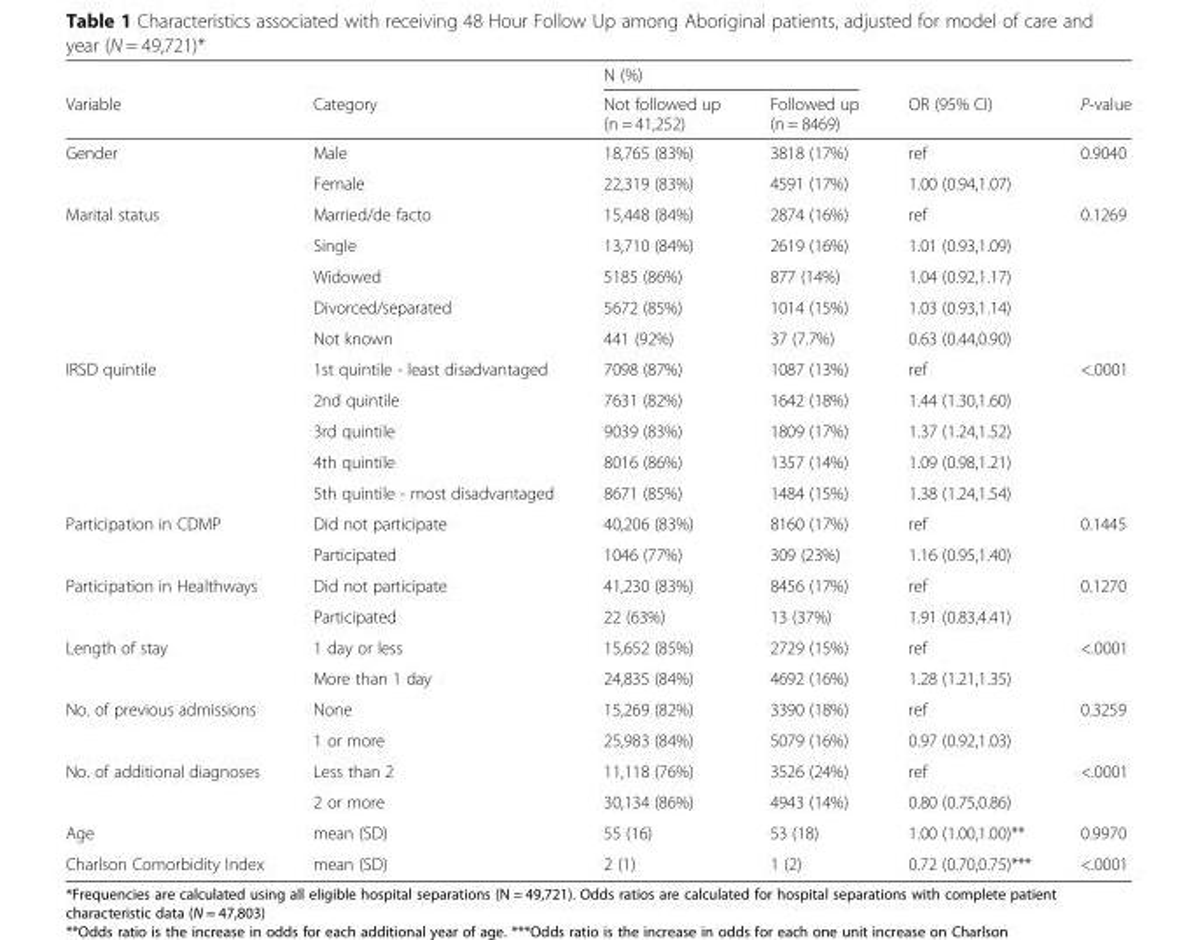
<table><thead><tr><td rowspan="2">Variable</td><td rowspan="2">Category</td><td colspan="2">N (%)</td><td rowspan="2">OR (95% CI)</td><td rowspan="2">P-value</td></tr><tr><td>Not followed up (n = 41,252)</td><td>Followed up (n = 8469)</td></tr></thead><tbody><tr><td rowspan="2">Gender</td><td>Male</td><td>18,765 (83%)</td><td>3818 (17%)</td><td>ref</td><td>0.9040</td></tr><tr><td>Female</td><td>22,319 (83%)</td><td>4591 (17%)</td><td>1.00 (0.94,1.07)</td><td></td></tr><tr><td rowspan="5">Marital status</td><td>Married/de facto</td><td>15,448 (84%)</td><td>2874 (16%)</td><td>ref</td><td>0.1269</td></tr><tr><td>Single</td><td>13,710 (84%)</td><td>2619 (16%)</td><td>1.01 (0.93,1.09)</td><td></td></tr><tr><td>Widowed</td><td>5185 (86%)</td><td>877 (14%)</td><td>1.04 (0.92,1.17)</td><td></td></tr><tr><td>Divorced/separated</td><td>5672 (85%)</td><td>1014 (15%)</td><td>1.03 (0.93,1.14)</td><td></td></tr><tr><td>Not known</td><td>441 (92%)</td><td>37 (7.7%)</td><td>0.63 (0.44,0.90)</td><td></td></tr><tr><td rowspan="5">IRSD quintile</td><td>1st quintile - least disadvantaged</td><td>7098 (87%)</td><td>1087 (13%)</td><td>ref</td><td>&lt;.0001</td></tr><tr><td>2nd quintile</td><td>7631 (82%)</td><td>1642 (18%)</td><td>1.44 (1.30,1.60)</td><td></td></tr><tr><td>3rd quintile</td><td>9039 (83%)</td><td>1809 (17%)</td><td>1.37 (1.24,1.52)</td><td></td></tr><tr><td>4th quintile</td><td>8016 (86%)</td><td>1357 (14%)</td><td>1.09 (0.98,1.21)</td><td></td></tr><tr><td>5th quintile - most disadvantaged</td><td>8671 (85%)</td><td>1484 (15%)</td><td>1.38 (1.24,1.54)</td><td></td></tr><tr><td rowspan="2">Participation in CDMP</td><td>Did not participate</td><td>40,206 (83%)</td><td>8160 (17%)</td><td>ref</td><td>0.1445</td></tr><tr><td>Participated</td><td>1046 (77%)</td><td>309 (23%)</td><td>1.16 (0.95,1.40)</td><td></td></tr><tr><td rowspan="2">Participation in Healthways</td><td>Did not participate</td><td>41,230 (83%)</td><td>8456 (17%)</td><td>ref</td><td>0.1270</td></tr><tr><td>Participated</td><td>22 (63%)</td><td>13 (37%)</td><td>1.91 (0.83,4.41)</td><td></td></tr><tr><td rowspan="2">Length of stay</td><td>1 day or less</td><td>15,652 (85%)</td><td>2729 (15%)</td><td>ref</td><td>&lt;.0001</td></tr><tr><td>More than 1 day</td><td>24,835 (84%)</td><td>4692 (16%)</td><td>1.28 (1.21,1.35)</td><td></td></tr><tr><td rowspan="2">No. of previous admissions</td><td>None</td><td>15,269 (82%)</td><td>3390 (18%)</td><td>ref</td><td>0.3259</td></tr><tr><td>1 or more</td><td>25,983 (84%)</td><td>5079 (16%)</td><td>0.97 (0.92,1.03)</td><td></td></tr><tr><td rowspan="2">No. of additional diagnoses</td><td>Less than 2</td><td>11,118 (76%)</td><td>3526 (24%)</td><td>ref</td><td>&lt;.0001</td></tr><tr><td>2 or more</td><td>30,134 (86%)</td><td>4943 (14%)</td><td>0.80 (0.75,0.86)</td><td></td></tr><tr><td>Age</td><td>mean (SD)</td><td>55 (16)</td><td>53 (18)</td><td>1.00 (1.00,1.00)**</td><td>0.9970</td></tr><tr><td>Charlson Comorbidity Index</td><td>mean (SD)</td><td>2 (1)</td><td>1 (2)</td><td>0.72 (0.70,0.75)***</td><td>&lt;.0001</td></tr></tbody></table>